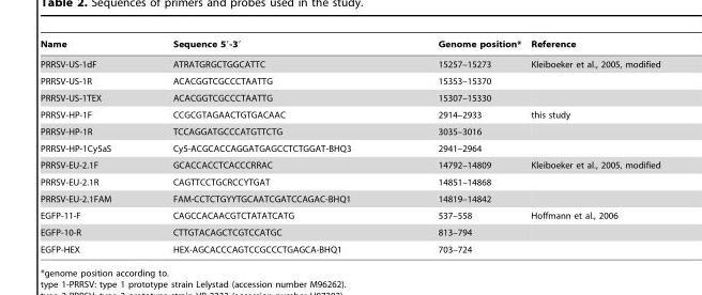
<table><thead><tr><td>Name</td><td>Sequence 5′-3′</td><td>Genome position*</td><td>Reference</td></tr></thead><tbody><tr><td>PRRSV-US-1dF</td><td>ATRATGRGCTGGCATTC</td><td>15257–15273</td><td>Kleiboeker et al., 2005, modified</td></tr><tr><td>PRRSV-US-1R</td><td>ACACGGTCGCCCTAATTG</td><td>15353–15370</td><td></td></tr><tr><td>PRRSV-US-1TEX</td><td>ACACGGTCGCCCTAATTG</td><td>15307–15330</td><td></td></tr><tr><td>PRRSV-HP-1F</td><td>CCGCGTAGAACTGTGACAAC</td><td>2914–2933</td><td>this study</td></tr><tr><td>PRRSV-HP-1R</td><td>TCCAGGATGCCCATGTTCTG</td><td>3035–3016</td><td></td></tr><tr><td>PRRSV-HP-1Cy5aS</td><td>Cy5-ACGCACCAGGATGAGCCTCTGGAT-BHQ3</td><td>2941–2964</td><td></td></tr><tr><td>PRRSV-EU-2.1F</td><td>GCACCACCTCACCCRRAC</td><td>14792–14809</td><td>Kleiboeker et al., 2005, modified</td></tr><tr><td>PRRSV-EU-2.1R</td><td>CAGTTCCTGCRCCYTGAT</td><td>14851–14868</td><td></td></tr><tr><td>PRRSV-EU-2.1FAM</td><td>FAM-CCTCTGYYTGCAATCGATCCAGAC-BHQ1</td><td>14819–14842</td><td></td></tr><tr><td>EGFP-11-F</td><td>CAGCCACAACGTCTATATCATG</td><td>537–558</td><td>Hoffmann et al., 2006</td></tr><tr><td>EGFP-10-R</td><td>CTTGTACAGCTCGTCCATGC</td><td>813–794</td><td></td></tr><tr><td>EGFP-HEX</td><td>HEX-AGCACCCAGTCCGCCCTGAGCA-BHQ1</td><td>703–724</td><td></td></tr></tbody></table>